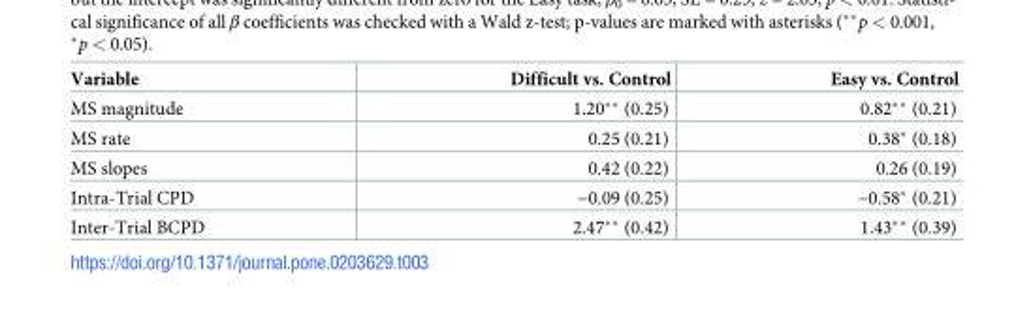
<table><thead><tr><td>Variable</td><td>Difficult vs. Control</td><td>Easy vs. Control</td></tr></thead><tbody><tr><td>MS magnitude</td><td>1.20** (0.25)</td><td>0.82** (0.21)</td></tr><tr><td>MS rate</td><td>0.25 (0.21)</td><td>0.38* (0.18)</td></tr><tr><td>MS slopes</td><td>0.42 (0.22)</td><td>0.26 (0.19)</td></tr><tr><td>Intra-Trial CPD</td><td>−0.09 (0.25)</td><td>−0.58* (0.21)</td></tr><tr><td>Inter-Trial BCPD</td><td>2.47** (0.42)</td><td>1.43** (0.39)</td></tr></tbody></table>